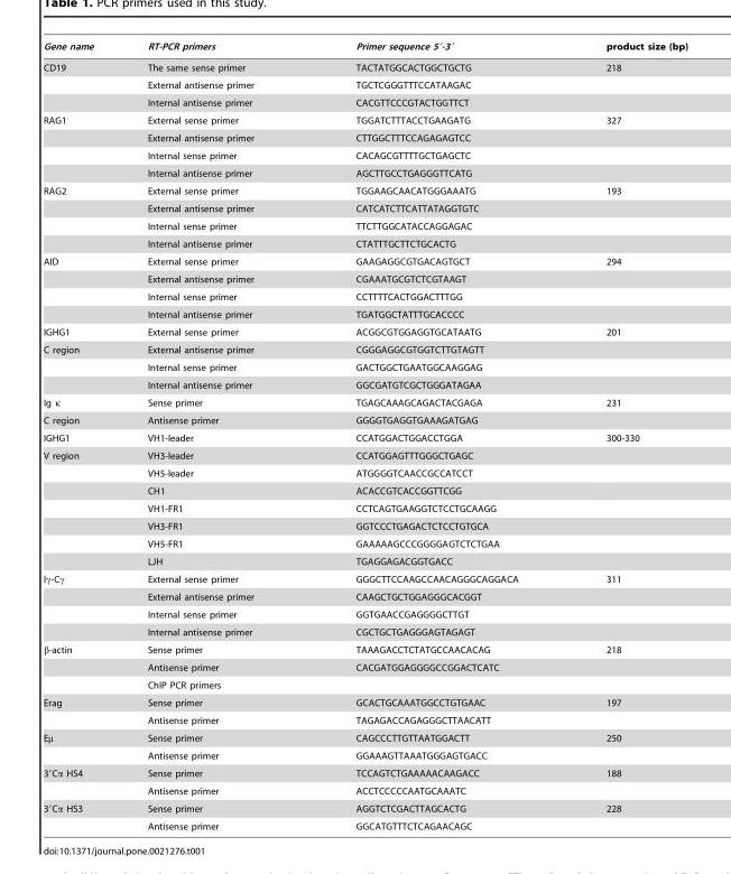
<table><thead><tr><td>Gene name</td><td>RT-PCR primers</td><td>Primer sequence 5′-3′</td><td>product size (bp)</td></tr></thead><tbody><tr><td rowspan="3">CD19</td><td>The same sense primer</td><td>TACTATGGCACTGGCTGCTG</td><td>218</td></tr><tr><td>External antisense primer</td><td>TGCTCGGGTTTCCATAAGAC</td><td></td></tr><tr><td>Internal antisense primer</td><td>CACGTTCCCGTACTGGTTCT</td><td></td></tr><tr><td rowspan="4">RAG1</td><td>External sense primer</td><td>TGGATCTTTACCTGAAGATG</td><td>327</td></tr><tr><td>External antisense primer</td><td>CTTGGCTTTCCAGAGAGTCC</td><td></td></tr><tr><td>Internal sense primer</td><td>CACAGCGTTTTGCTGAGCTC</td><td></td></tr><tr><td>Internal antisense primer</td><td>AGCTTGCCTGAGGGTTCATG</td><td></td></tr><tr><td rowspan="4">RAG2</td><td>External sense primer</td><td>TGGAAGCAACATGGGAAATG</td><td>193</td></tr><tr><td>External antisense primer</td><td>CATCATCTTCATTATAGGTGTC</td><td></td></tr><tr><td>Internal sense primer</td><td>TTCTTGGCATACCAGGAGAC</td><td></td></tr><tr><td>Internal antisense primer</td><td>CTATTTGCTTCTGCACTG</td><td></td></tr><tr><td rowspan="4">AID</td><td>External sense primer</td><td>GAAGAGGCGTGACAGTGCT</td><td>294</td></tr><tr><td>External antisense primer</td><td>CGAAATGCGTCTCGTAAGT</td><td></td></tr><tr><td>Internal sense primer</td><td>CCTTTTCACTGGACTTTGG</td><td></td></tr><tr><td>Internal antisense primer</td><td>TGATGGCTATTTGCACCCC</td><td></td></tr><tr><td>IGHG1</td><td>External sense primer</td><td>ACGGCGTGGAGGTGCATAATG</td><td>201</td></tr><tr><td rowspan="3">C region</td><td>External antisense primer</td><td>CGGGAGGCGTGGTCTTGTAGTT</td><td></td></tr><tr><td>Internal sense primer</td><td>GACTGGCTGAATGGCAAGGAG</td><td></td></tr><tr><td>Internal antisense primer</td><td>GGCGATGTCGCTGGGATAGAA</td><td></td></tr><tr><td>Ig κ</td><td>Sense primer</td><td>TGAGCAAAGCAGACTACGAGA</td><td>231</td></tr><tr><td>C region</td><td>Antisense primer</td><td>GGGGTGAGGTGAAAGATGAG</td><td></td></tr><tr><td>IGHG1</td><td>VH1-leader</td><td>CCATGGACTGGACCTGGA</td><td>300-330</td></tr><tr><td rowspan="7">V region</td><td>VH3-leader</td><td>CCATGGAGTTTGGGCTGAGC</td><td></td></tr><tr><td>VH5-leader</td><td>ATGGGGTCAACCGCCATCCT</td><td></td></tr><tr><td>CH1</td><td>ACACCGTCACCGGTTCGG</td><td></td></tr><tr><td>VH1-FR1</td><td>CCTCAGTGAAGGTCTCCTGCAAGG</td><td></td></tr><tr><td>VH3-FR1</td><td>GGTCCCTGAGACTCTCCTGTGCA</td><td></td></tr><tr><td>VH5-FR1</td><td>GAAAAAGCCCGGGGAGTCTCTGAA</td><td></td></tr><tr><td>LJH</td><td>TGAGGAGACGGTGACC</td><td></td></tr><tr><td rowspan="4">Iγ-Cγ</td><td>External sense primer</td><td>GGGCTTCCAAGCCAACAGGGCAGGACA</td><td>311</td></tr><tr><td>External antisense primer</td><td>CAAGCTGCTGGAGGGCACGGT</td><td></td></tr><tr><td>Internal sense primer</td><td>GGTGAACCGAGGGGCTTGT</td><td></td></tr><tr><td>Internal antisense primer</td><td>CGCTGCTGAGGGAGTAGAGT</td><td></td></tr><tr><td rowspan="3">β-actin</td><td>Sense primer</td><td>TAAAGACCTCTATGCCAACACAG</td><td>218</td></tr><tr><td>Antisense primer</td><td>CACGATGGAGGGGCCGGACTCATC</td><td></td></tr><tr><td>ChIP PCR primers</td><td></td><td></td></tr><tr><td rowspan="2">Erag</td><td>Sense primer</td><td>GCACTGCAAATGGCCTGTGAAC</td><td>197</td></tr><tr><td>Antisense primer</td><td>TAGAGACCAGAGGGCTTAACATT</td><td></td></tr><tr><td rowspan="2">Eµ</td><td>Sense primer</td><td>CAGCCCTTGTTAATGGACTT</td><td>250</td></tr><tr><td>Antisense primer</td><td>GGAAAGTTAAATGGGAGTGACC</td><td></td></tr><tr><td rowspan="2">3′Cα HS4</td><td>Sense primer</td><td>TCCAGTCTGAAAAACAAGACC</td><td>188</td></tr><tr><td>Antisense primer</td><td>ACCTCCCCCAATGCAAATC</td><td></td></tr><tr><td rowspan="2">3′Cα HS3</td><td>Sense primer</td><td>AGGTCTCGACTTAGCACTG</td><td>228</td></tr><tr><td>Antisense primer</td><td>GGCATGTTTCTCAGAACAGC</td><td></td></tr></tbody></table>